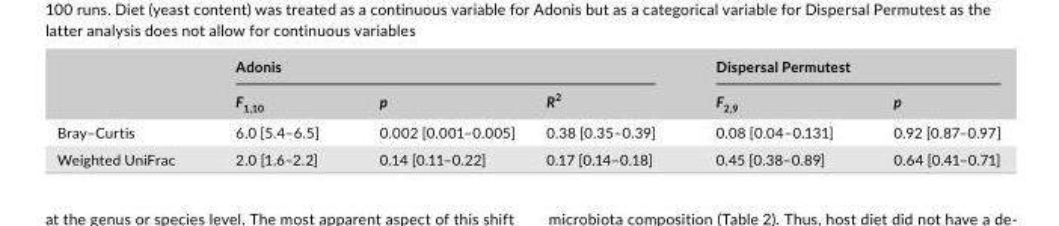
<table><thead><tr><td rowspan="2"></td><td colspan="3">Adonis</td><td colspan="2">Dispersal Permutest</td></tr><tr><td>F<sub>1,10</sub></td><td>p</td><td>R<sup>2</sup></td><td>F<sub>2,9</sub></td><td>p</td></tr></thead><tbody><tr><td>Bray–Curtis</td><td>6.0 [5.4–6.5]</td><td>0.002 [0.001–0.005]</td><td>0.38 [0.35–0.39]</td><td>0.08 [0.04–0.131]</td><td>0.92 [0.87–0.97]</td></tr><tr><td>Weighted UniFrac</td><td>2.0 [1.6–2.2]</td><td>0.14 [0.11–0.22]</td><td>0.17 [0.14–0.18]</td><td>0.45 [0.38–0.89]</td><td>0.64 [0.41–0.71]</td></tr></tbody></table>